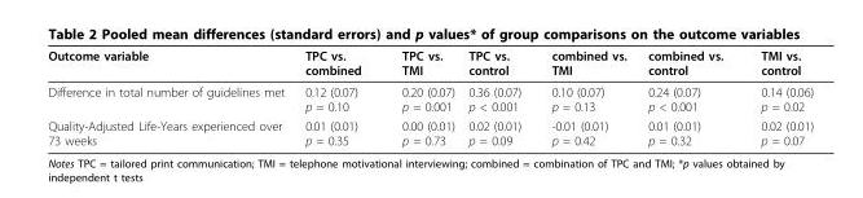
<table><thead><tr><td>Outcome variable</td><td>TPC vs. combined</td><td>TPC vs. TMI</td><td>TPC vs. control</td><td>combined vs. TMI</td><td>combined vs. control</td><td>TMI vs. control</td></tr></thead><tbody><tr><td>Difference in total number of guidelines met</td><td>0.12 (0.07) p = 0.10</td><td>0.20 (0.07) p = 0.001</td><td>0.36 (0.07) p &lt; 0.001</td><td>0.10 (0.07) p = 0.13</td><td>0.24 (0.07) p &lt; 0.001</td><td>0.14 (0.06) p = 0.02</td></tr><tr><td>Quality-Adjusted Life-Years experienced over 73 weeks</td><td>0.01 (0.01) p = 0.35</td><td>0.00 (0.01) p = 0.73</td><td>0.02 (0.01) p = 0.09</td><td>-0.01 (0.01) p = 0.42</td><td>0.01 (0.01) p = 0.32</td><td>0.02 (0.01) p = 0.07</td></tr></tbody></table>